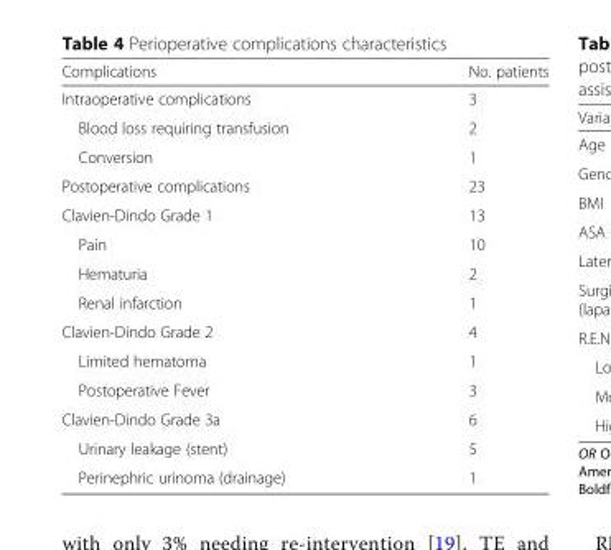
<table><thead><tr><td>Complications</td><td>No. patients</td></tr></thead><tbody><tr><td>Intraoperative complications</td><td>3</td></tr><tr><td>Blood loss requiring transfusion</td><td>2</td></tr><tr><td>Conversion</td><td>1</td></tr><tr><td>Postoperative complications</td><td>23</td></tr><tr><td>Clavien-Dindo Grade 1</td><td>13</td></tr><tr><td>Pain</td><td>10</td></tr><tr><td>Hematuria</td><td>2</td></tr><tr><td>Renal infarction</td><td>1</td></tr><tr><td>Clavien-Dindo Grade 2</td><td>4</td></tr><tr><td>Limited hematoma</td><td>1</td></tr><tr><td>Postoperative Fever</td><td>3</td></tr><tr><td>Clavien-Dindo Grade 3a</td><td>6</td></tr><tr><td>Urinary leakage (stent)</td><td>5</td></tr><tr><td>Perinephric urinoma (drainage)</td><td>1</td></tr></tbody></table>